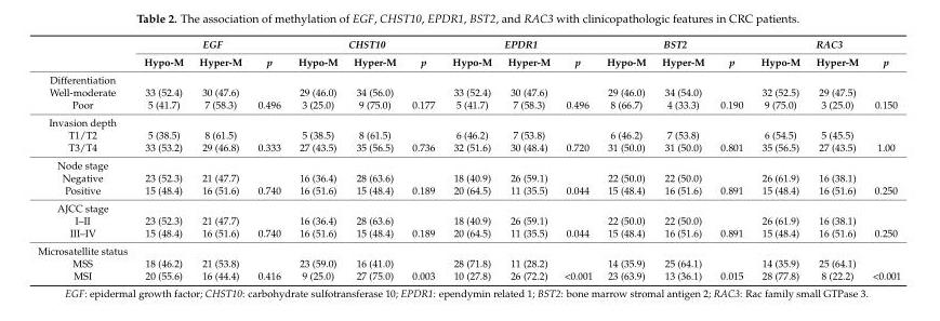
<table><thead><tr><td rowspan="2"></td><td colspan="3">EGF</td><td colspan="3">CHST10</td><td colspan="3">EPDR1</td><td colspan="3">BST2</td><td colspan="3">RAC3</td></tr><tr><td>Hypo-M</td><td>Hyper-M</td><td>p</td><td>Hypo-M</td><td>Hyper-M</td><td>p</td><td>Hypo-M</td><td>Hyper-M</td><td>p</td><td>Hypo-M</td><td>Hyper-M</td><td>p</td><td>Hypo-M</td><td>Hyper-M</td><td>p</td></tr></thead><tbody><tr><td colspan="16">Differentiation</td></tr><tr><td>Well-moderate</td><td>33 (52.4)</td><td>30 (47.6)</td><td></td><td>29 (46.0)</td><td>34 (56.0)</td><td></td><td>33 (52.4)</td><td>30 (47.6)</td><td></td><td>29 (46.0)</td><td>34 (54.0)</td><td></td><td>32 (52.5)</td><td>29 (47.5)</td><td></td></tr><tr><td>Poor</td><td>5 (41.7)</td><td>7 (58.3)</td><td>0.496</td><td>3 (25.0)</td><td>9 (75.0)</td><td>0.177</td><td>5 (41.7)</td><td>7 (58.3)</td><td>0.496</td><td>8 (66.7)</td><td>4 (33.3)</td><td>0.190</td><td>9 (75.0)</td><td>3 (25.0)</td><td>0.150</td></tr><tr><td colspan="16">Invasion depth</td></tr><tr><td>T1/T2</td><td>5 (38.5)</td><td>8 (61.5)</td><td></td><td>5 (38.5)</td><td>8 (61.5)</td><td></td><td>6 (46.2)</td><td>7 (53.8)</td><td></td><td>6 (46.2)</td><td>7 (53.8)</td><td></td><td>6 (54.5)</td><td>5 (45.5)</td><td></td></tr><tr><td>T3/T4</td><td>33 (53.2)</td><td>29 (46.8)</td><td>0.333</td><td>27 (43.5)</td><td>35 (56.5)</td><td>0.736</td><td>32 (51.6)</td><td>30 (48.4)</td><td>0.720</td><td>31 (50.0)</td><td>31 (50.0)</td><td>0.801</td><td>35 (56.5)</td><td>27 (43.5)</td><td>1.00</td></tr><tr><td colspan="16">Node stage</td></tr><tr><td>Negative</td><td>23 (52.3)</td><td>21 (47.7)</td><td></td><td>16 (36.4)</td><td>28 (63.6)</td><td></td><td>18 (40.9)</td><td>26 (59.1)</td><td></td><td>22 (50.0)</td><td>22 (50.0)</td><td></td><td>26 (61.9)</td><td>16 (38.1)</td><td></td></tr><tr><td>Positive</td><td>15 (48.4)</td><td>16 (51.6)</td><td>0.740</td><td>16 (51.6)</td><td>15 (48.4)</td><td>0.189</td><td>20 (64.5)</td><td>11 (35.5)</td><td>0.044</td><td>15 (48.4)</td><td>16 (51.6)</td><td>0.891</td><td>15 (48.4)</td><td>16 (51.6)</td><td>0.250</td></tr><tr><td colspan="16">AJCC stage</td></tr><tr><td>I–II</td><td>23 (52.3)</td><td>21 (47.7)</td><td></td><td>16 (36.4)</td><td>28 (63.6)</td><td></td><td>18 (40.9)</td><td>26 (59.1)</td><td></td><td>22 (50.0)</td><td>22 (50.0)</td><td></td><td>26 (61.9)</td><td>16 (38.1)</td><td></td></tr><tr><td>III–IV</td><td>15 (48.4)</td><td>16 (51.6)</td><td>0.740</td><td>16 (51.6)</td><td>15 (48.4)</td><td>0.189</td><td>20 (64.5)</td><td>11 (35.5)</td><td>0.044</td><td>15 (48.4)</td><td>16 (51.6)</td><td>0.891</td><td>15 (48.4)</td><td>16 (51.6)</td><td>0.250</td></tr><tr><td colspan="16">Microsatellite status</td></tr><tr><td>MSS</td><td>18 (46.2)</td><td>21 (53.8)</td><td></td><td>23 (59.0)</td><td>16 (41.0)</td><td></td><td>28 (71.8)</td><td>11 (28.2)</td><td></td><td>14 (35.9)</td><td>25 (64.1)</td><td></td><td>14 (35.9)</td><td>25 (64.1)</td><td></td></tr><tr><td>MSI</td><td>20 (55.6)</td><td>16 (44.4)</td><td>0.416</td><td>9 (25.0)</td><td>27 (75.0)</td><td>0.003</td><td>10 (27.8)</td><td>26 (72.2)</td><td>&lt;0.001</td><td>23 (63.9)</td><td>13 (36.1)</td><td>0.015</td><td>28 (77.8)</td><td>8 (22.2)</td><td>&lt;0.001</td></tr></tbody></table>